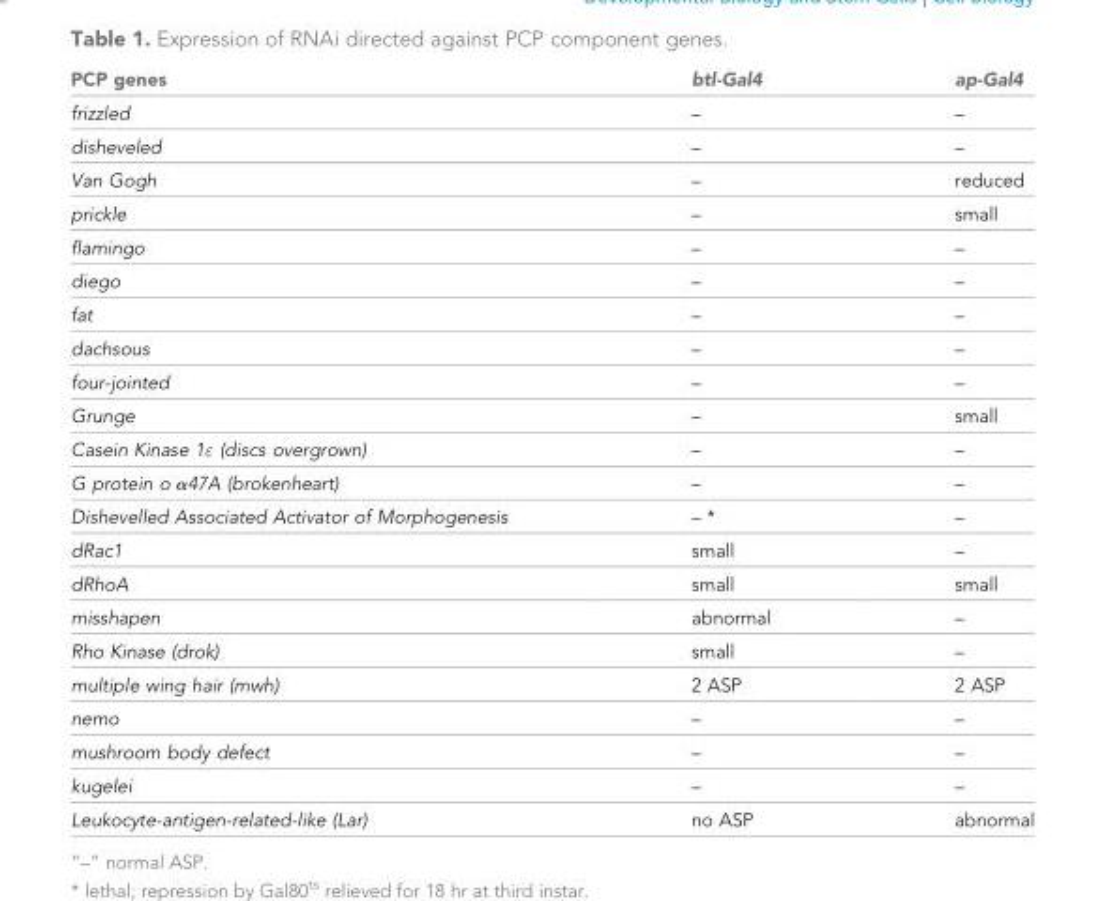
<table><thead><tr><td>PCP genes</td><td>btl-Gal4</td><td>ap-Gal4</td></tr></thead><tbody><tr><td>frizzled</td><td>–</td><td>–</td></tr><tr><td>disheveled</td><td>–</td><td>–</td></tr><tr><td>Van Gogh</td><td>–</td><td>reduced</td></tr><tr><td>prickle</td><td>–</td><td>small</td></tr><tr><td>flamingo</td><td>–</td><td>–</td></tr><tr><td>diego</td><td>–</td><td>–</td></tr><tr><td>fat</td><td>–</td><td>–</td></tr><tr><td>dachsous</td><td>–</td><td>–</td></tr><tr><td>four-jointed</td><td>–</td><td>–</td></tr><tr><td>Grunge</td><td>–</td><td>small</td></tr><tr><td>Casein Kinase 1&quot; (discs overgrown)</td><td>–</td><td>–</td></tr><tr><td>G protein o α47A (brokenheart)</td><td>–</td><td>–</td></tr><tr><td>Dishevelled Associated Activator of Morphogenesis</td><td>– *</td><td>–</td></tr><tr><td>dRac1</td><td>small</td><td>–</td></tr><tr><td>dRhoA</td><td>small</td><td>small</td></tr><tr><td>misshapen</td><td>abnormal</td><td>–</td></tr><tr><td>Rho Kinase (drok)</td><td>small</td><td>–</td></tr><tr><td>multiple wing hair (mwh)</td><td>2 ASP</td><td>2 ASP</td></tr><tr><td>nemo</td><td>–</td><td>–</td></tr><tr><td>mushroom body defect</td><td>–</td><td>–</td></tr><tr><td>kugelei</td><td>–</td><td>–</td></tr><tr><td>Leukocyte-antigen-related-like (Lar)</td><td>no ASP</td><td>abnormal</td></tr></tbody></table>